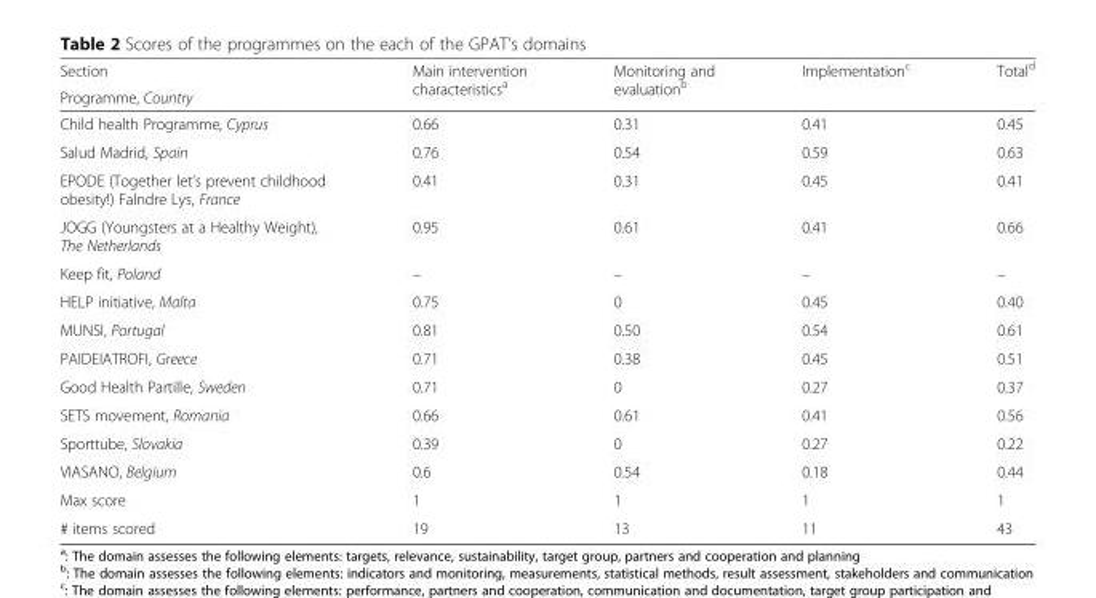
<table><thead><tr><td rowspan="2">Section Programme, Country</td><td rowspan="2">Main intervention characteristics<sup>a</sup></td><td rowspan="2">Monitoring and evaluation<sup>b</sup></td><td rowspan="2">Implementation<sup>c</sup></td><td rowspan="2">Total<sup>d</sup></td></tr><tr></tr></thead><tbody><tr><td>Child health Programme, Cyprus</td><td>0.66</td><td>0.31</td><td>0.41</td><td>0.45</td></tr><tr><td>Salud Madrid, Spain</td><td>0.76</td><td>0.54</td><td>0.59</td><td>0.63</td></tr><tr><td>EPODE (Together let’s prevent childhood obesity!) Falndre Lys, France</td><td>0.41</td><td>0.31</td><td>0.45</td><td>0.41</td></tr><tr><td>JOGG (Youngsters at a Healthy Weight), The Netherlands</td><td>0.95</td><td>0.61</td><td>0.41</td><td>0.66</td></tr><tr><td>Keep fit, Poland</td><td>–</td><td>–</td><td>–</td><td>–</td></tr><tr><td>HELP initiative, Malta</td><td>0.75</td><td>0</td><td>0.45</td><td>0.40</td></tr><tr><td>MUNSI, Portugal</td><td>0.81</td><td>0.50</td><td>0.54</td><td>0.61</td></tr><tr><td>PAIDEIATROFI, Greece</td><td>0.71</td><td>0.38</td><td>0.45</td><td>0.51</td></tr><tr><td>Good Health Partille, Sweden</td><td>0.71</td><td>0</td><td>0.27</td><td>0.37</td></tr><tr><td>SETS movement, Romania</td><td>0.66</td><td>0.61</td><td>0.41</td><td>0.56</td></tr><tr><td>Sporttube, Slovakia</td><td>0.39</td><td>0</td><td>0.27</td><td>0.22</td></tr><tr><td>VIASANO, Belgium</td><td>0.6</td><td>0.54</td><td>0.18</td><td>0.44</td></tr><tr><td>Max score</td><td>1</td><td>1</td><td>1</td><td>1</td></tr><tr><td># items scored</td><td>19</td><td>13</td><td>11</td><td>43</td></tr></tbody></table>